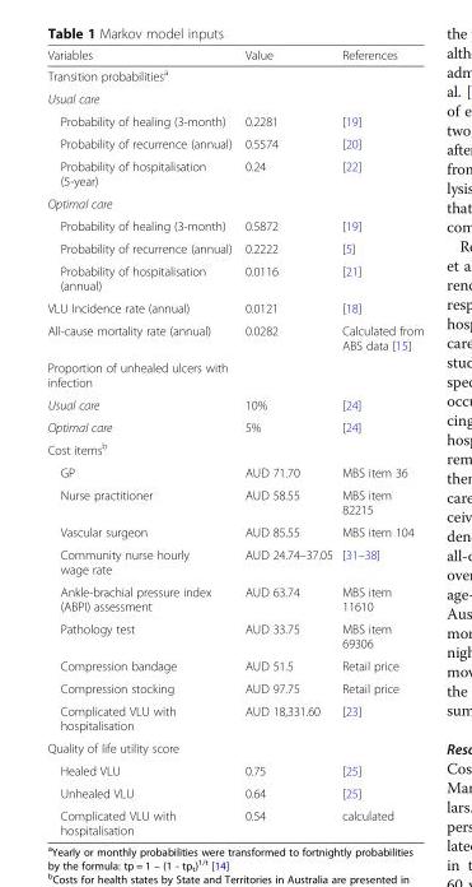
<table><thead><tr><td>Variables</td><td>Value</td><td>References</td></tr></thead><tbody><tr><td colspan="3">Transition probabilities<sup>a</sup></td></tr><tr><td colspan="3">Usual care</td></tr><tr><td>Probability of healing (3-month)</td><td>0.2281</td><td>[19]</td></tr><tr><td>Probability of recurrence (annual)</td><td>0.5574</td><td>[20]</td></tr><tr><td>Probability of hospitalisation (5-year)</td><td>0.24</td><td>[22]</td></tr><tr><td colspan="3">Optimal care</td></tr><tr><td>Probability of healing (3-month)</td><td>0.5872</td><td>[19]</td></tr><tr><td>Probability of recurrence (annual)</td><td>0.2222</td><td>[5]</td></tr><tr><td>Probability of hospitalisation (annual)</td><td>0.0116</td><td>[21]</td></tr><tr><td>VLU Incidence rate (annual)</td><td>0.0121</td><td>[18]</td></tr><tr><td>All-cause mortality rate (annual)</td><td>0.0282</td><td>Calculated from ABS data [15]</td></tr><tr><td colspan="3">Proportion of unhealed ulcers with infection</td></tr><tr><td>Usual care</td><td>10%</td><td>[24]</td></tr><tr><td>Optimal care</td><td>5%</td><td>[24]</td></tr><tr><td colspan="3">Cost items<sup>b</sup></td></tr><tr><td>GP</td><td>AUD 71.70</td><td>MBS item 36</td></tr><tr><td>Nurse practitioner</td><td>AUD 58.55</td><td>MBS item 82215</td></tr><tr><td>Vascular surgeon</td><td>AUD 85.55</td><td>MBS item 104</td></tr><tr><td>Community nurse hourly wage rate</td><td>AUD 24.74–37.05</td><td>[31–38]</td></tr><tr><td>Ankle-brachial pressure index (ABPI) assessment</td><td>AUD 63.74</td><td>MBS item 11610</td></tr><tr><td>Pathology test</td><td>AUD 33.75</td><td>MBS item 69306</td></tr><tr><td>Compression bandage</td><td>AUD 51.5</td><td>Retail price</td></tr><tr><td>Compression stocking</td><td>AUD 97.75</td><td>Retail price</td></tr><tr><td>Complicated VLU with hospitalisation</td><td>AUD 18,331.60</td><td>[23]</td></tr><tr><td colspan="3">Quality of life utility score</td></tr><tr><td>Healed VLU</td><td>0.75</td><td>[25]</td></tr><tr><td>Unhealed VLU</td><td>0.64</td><td>[25]</td></tr><tr><td>Complicated VLU with hospitalisation</td><td>0.54</td><td>calculated</td></tr></tbody></table>